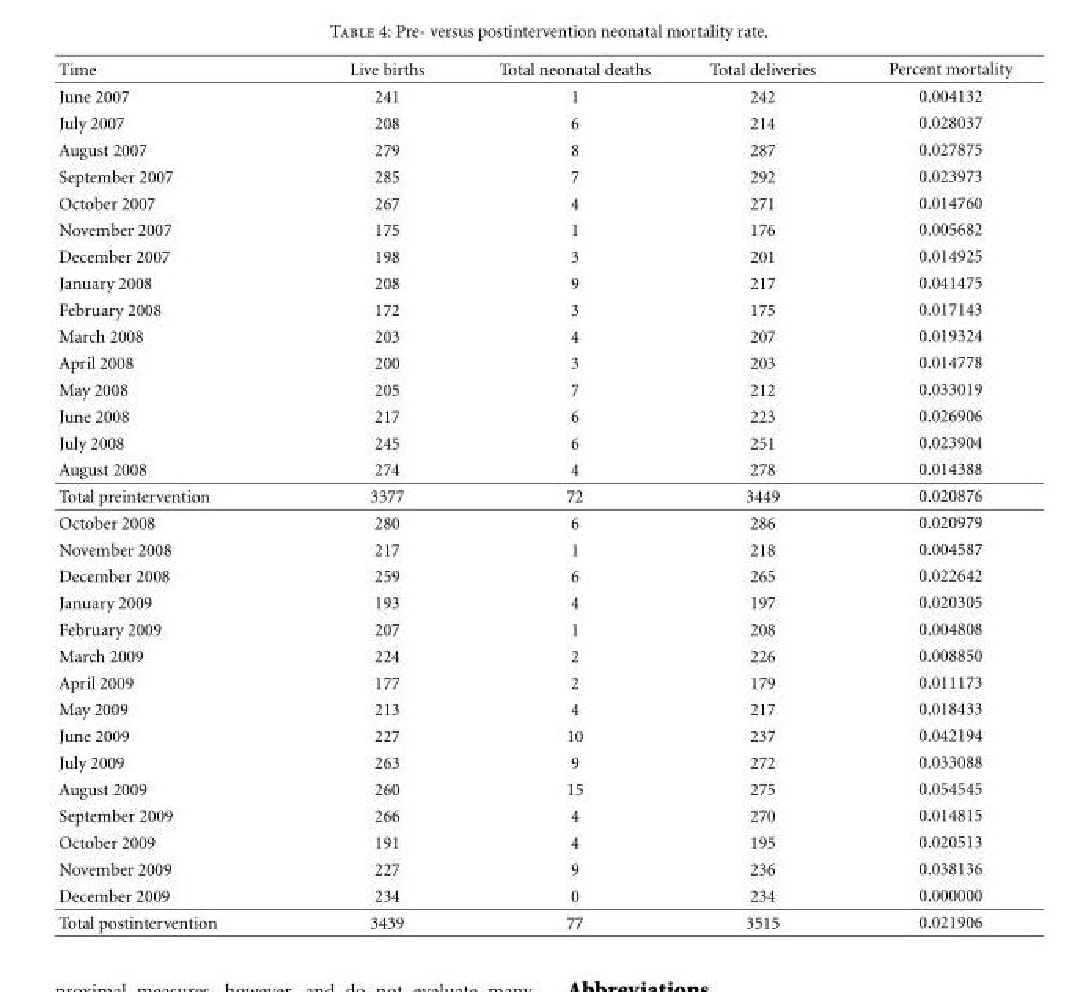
<table><thead><tr><td>Time</td><td>Live births</td><td>Total neonatal deaths</td><td>Total deliveries</td><td>Percent mortality</td></tr></thead><tbody><tr><td>June 2007</td><td>241</td><td>1</td><td>242</td><td>0.004132</td></tr><tr><td>July 2007</td><td>208</td><td>6</td><td>214</td><td>0.028037</td></tr><tr><td>August 2007</td><td>279</td><td>8</td><td>287</td><td>0.027875</td></tr><tr><td>September 2007</td><td>285</td><td>7</td><td>292</td><td>0.023973</td></tr><tr><td>October 2007</td><td>267</td><td>4</td><td>271</td><td>0.014760</td></tr><tr><td>November 2007</td><td>175</td><td>1</td><td>176</td><td>0.005682</td></tr><tr><td>December 2007</td><td>198</td><td>3</td><td>201</td><td>0.014925</td></tr><tr><td>January 2008</td><td>208</td><td>9</td><td>217</td><td>0.041475</td></tr><tr><td>February 2008</td><td>172</td><td>3</td><td>175</td><td>0.017143</td></tr><tr><td>March 2008</td><td>203</td><td>4</td><td>207</td><td>0.019324</td></tr><tr><td>April 2008</td><td>200</td><td>3</td><td>203</td><td>0.014778</td></tr><tr><td>May 2008</td><td>205</td><td>7</td><td>212</td><td>0.033019</td></tr><tr><td>June 2008</td><td>217</td><td>6</td><td>223</td><td>0.026906</td></tr><tr><td>July 2008</td><td>245</td><td>6</td><td>251</td><td>0.023904</td></tr><tr><td>August 2008</td><td>274</td><td>4</td><td>278</td><td>0.014388</td></tr><tr><td>Total preintervention</td><td>3377</td><td>72</td><td>3449</td><td>0.020876</td></tr><tr><td>October 2008</td><td>280</td><td>6</td><td>286</td><td>0.020979</td></tr><tr><td>November 2008</td><td>217</td><td>1</td><td>218</td><td>0.004587</td></tr><tr><td>December 2008</td><td>259</td><td>6</td><td>265</td><td>0.022642</td></tr><tr><td>January 2009</td><td>193</td><td>4</td><td>197</td><td>0.020305</td></tr><tr><td>February 2009</td><td>207</td><td>1</td><td>208</td><td>0.004808</td></tr><tr><td>March 2009</td><td>224</td><td>2</td><td>226</td><td>0.008850</td></tr><tr><td>April 2009</td><td>177</td><td>2</td><td>179</td><td>0.011173</td></tr><tr><td>May 2009</td><td>213</td><td>4</td><td>217</td><td>0.018433</td></tr><tr><td>June 2009</td><td>227</td><td>10</td><td>237</td><td>0.042194</td></tr><tr><td>July 2009</td><td>263</td><td>9</td><td>272</td><td>0.033088</td></tr><tr><td>August 2009</td><td>260</td><td>15</td><td>275</td><td>0.054545</td></tr><tr><td>September 2009</td><td>266</td><td>4</td><td>270</td><td>0.014815</td></tr><tr><td>October 2009</td><td>191</td><td>4</td><td>195</td><td>0.020513</td></tr><tr><td>November 2009</td><td>227</td><td>9</td><td>236</td><td>0.038136</td></tr><tr><td>December 2009</td><td>234</td><td>0</td><td>234</td><td>0.000000</td></tr><tr><td>Total postintervention</td><td>3439</td><td>77</td><td>3515</td><td>0.021906</td></tr></tbody></table>